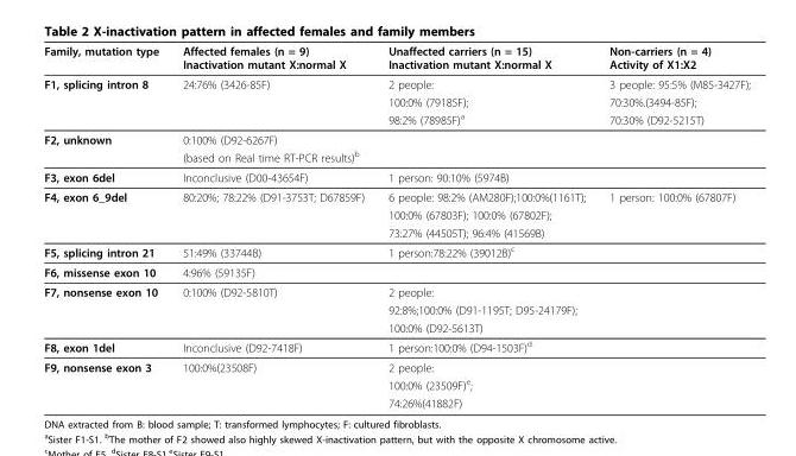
<table><thead><tr><td>Family, mutation type</td><td>Affected females (n = 9) Inactivation mutant X:normal X</td><td>Unaffected carriers (n = 15) Inactivation mutant X:normal X</td><td>Non-carriers (n = 4) Activity of X1:X2</td></tr></thead><tbody><tr><td rowspan="3">F1, splicing intron 8</td><td>24:76% (3426-85F)</td><td>2 people:</td><td>3 people: 95:5% (M85-3427F);</td></tr><tr><td></td><td>100:0% (79185F);</td><td>70:30%.(3494-85F);</td></tr><tr><td></td><td>98:2% (78985F)<sup>a</sup></td><td>70:30% (D92-5215T)</td></tr><tr><td rowspan="2">F2, unknown</td><td>0:100% (D92-6267F)</td><td></td><td></td></tr><tr><td>(based on Real time RT-PCR results)<sup>b</sup></td><td></td><td></td></tr><tr><td>F3, exon 6del</td><td>Inconclusive (D00-43654F)</td><td>1 person: 90:10% (5974B)</td><td></td></tr><tr><td rowspan="3">F4, exon 6_9del</td><td>80:20%; 78:22% (D91-3753T; D67859F)</td><td>6 people: 98:2% (AM280F);100:0%(1161T);</td><td>1 person: 100:0% (67807F)</td></tr><tr><td></td><td>100:0% (67803F); 100:0% (67802F);</td><td></td></tr><tr><td></td><td>73:27% (44505T); 96:4% (41569B)</td><td></td></tr><tr><td>F5, splicing intron 21</td><td>51:49% (33744B)</td><td>1 person:78:22% (39012B)<sup>c</sup></td><td></td></tr><tr><td>F6, missense exon 10</td><td>4:96% (59135F)</td><td></td><td></td></tr><tr><td rowspan="3">F7, nonsense exon 10</td><td>0:100% (D92-5810T)</td><td>2 people:</td><td></td></tr><tr><td></td><td>92:8%;100:0% (D91-1195T; D95-24179F);</td><td></td></tr><tr><td></td><td>100:0% (D92-5613T)</td><td></td></tr><tr><td>F8, exon 1del</td><td>Inconclusive (D92-7418F)</td><td>1 person:100:0% (D94-1503F)<sup>d</sup></td><td></td></tr><tr><td rowspan="3">F9, nonsense exon 3</td><td>100:0%(23508F)</td><td>2 people:</td><td></td></tr><tr><td></td><td>100:0% (23509F)<sup>e</sup>;</td><td></td></tr><tr><td></td><td>74:26%(41882F)</td><td></td></tr></tbody></table>